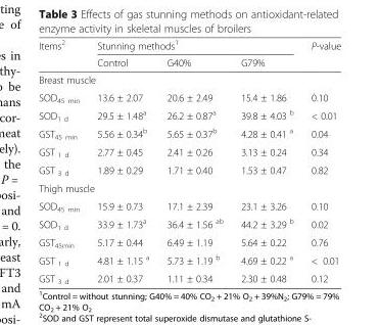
<table><thead><tr><td rowspan="2">Items<sup>2</sup></td><td colspan="3">Stunning methods<sup>1</sup></td><td rowspan="2">P-value</td></tr><tr><td>Control</td><td>G40%</td><td>G79%</td></tr></thead><tbody><tr><td colspan="5">Breast muscle</td></tr><tr><td>SOD<sub>45 min</sub></td><td>13.6 ± 2.07</td><td>20.6 ± 2.49</td><td>15.4 ± 1.86</td><td>0.10</td></tr><tr><td>SOD<sub>1 d</sub></td><td>29.5 ± 1.48<sup>a</sup></td><td>26.2 ± 0.87<sup>a</sup></td><td>39.8 ± 4.03 <sup>b</sup></td><td>&lt; 0.01</td></tr><tr><td>GST<sub>45 min</sub></td><td>5.56 ± 0.34<sup>b</sup></td><td>5.65 ± 0.37<sup>b</sup></td><td>4.28 ± 0.41 <sup>a</sup></td><td>0.04</td></tr><tr><td>GST <sub>1 d</sub></td><td>2.77 ± 0.45</td><td>2.41 ± 0.26</td><td>3.13 ± 0.24</td><td>0.34</td></tr><tr><td>GST <sub>3 d</sub></td><td>1.89 ± 0.29</td><td>1.71 ± 0.40</td><td>1.53 ± 0.47</td><td>0.82</td></tr><tr><td colspan="5">Thigh muscle</td></tr><tr><td>SOD<sub>45 min</sub></td><td>15.9 ± 0.73</td><td>17.1 ± 2.39</td><td>23.1 ± 3.26</td><td>0.10</td></tr><tr><td>SOD<sub>1 d</sub></td><td>33.9 ± 1.73<sup>a</sup></td><td>36.4 ± 1.56 <sup>ab</sup></td><td>44.2 ± 3.29 <sup>b</sup></td><td>0.02</td></tr><tr><td>GST<sub>45min</sub></td><td>5.17 ± 0.44</td><td>6.49 ± 1.19</td><td>5.64 ± 0.22</td><td>0.76</td></tr><tr><td>GST <sub>1 d</sub></td><td>4.81 ± 1.15 <sup>a</sup></td><td>5.73 ± 1.19 <sup>b</sup></td><td>4.69 ± 0.22 <sup>a</sup></td><td>&lt; 0.01</td></tr><tr><td>GST <sub>3 d</sub></td><td>2.01 ± 0.37</td><td>1.11 ± 0.34</td><td>2.30 ± 0.48</td><td>0.12</td></tr></tbody></table>